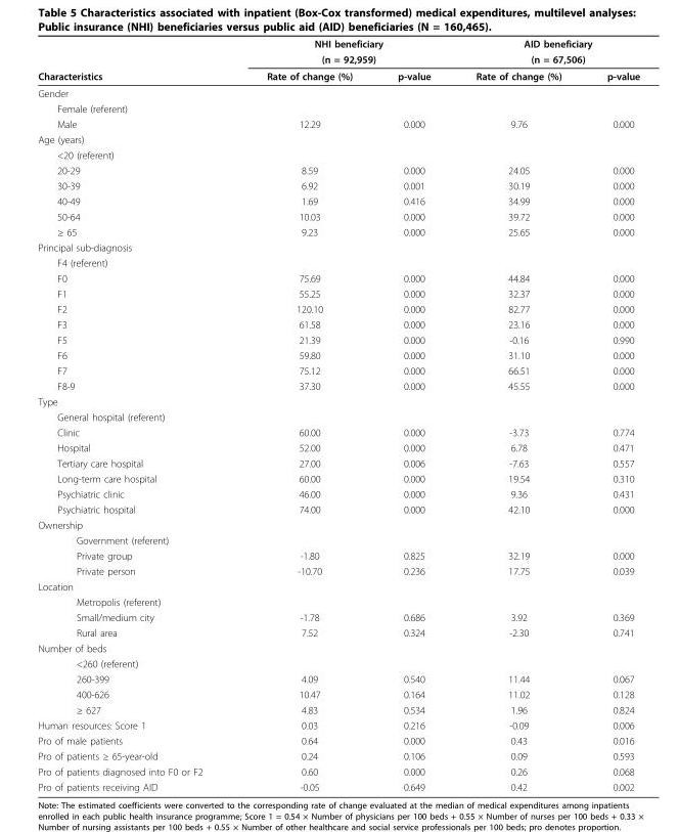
<table><thead><tr><td rowspan="3">Characteristics</td><td rowspan="2" colspan="2">NHI beneficiary (n = 92,959)</td><td rowspan="2" colspan="2">AID beneficiary (n = 67,506)</td></tr><tr></tr><tr><td>Rate of change (%)</td><td>p-value</td><td>Rate of change (%)</td><td>p-value</td></tr></thead><tbody><tr><td colspan="5">Gender</td></tr><tr><td colspan="5">Female (referent)</td></tr><tr><td>Male</td><td>12.29</td><td>0.000</td><td>9.76</td><td>0.000</td></tr><tr><td colspan="5">Age (years)</td></tr><tr><td colspan="5">&lt;20 (referent)</td></tr><tr><td>20-29</td><td>8.59</td><td>0.000</td><td>24.05</td><td>0.000</td></tr><tr><td>30-39</td><td>6.92</td><td>0.001</td><td>30.19</td><td>0.000</td></tr><tr><td>40-49</td><td>1.69</td><td>0.416</td><td>34.99</td><td>0.000</td></tr><tr><td>50-64</td><td>10.03</td><td>0.000</td><td>39.72</td><td>0.000</td></tr><tr><td>≥ 65</td><td>9.23</td><td>0.000</td><td>25.65</td><td>0.000</td></tr><tr><td colspan="5">Principal sub-diagnosis</td></tr><tr><td colspan="5">F4 (referent)</td></tr><tr><td>F0</td><td>75.69</td><td>0.000</td><td>44.84</td><td>0.000</td></tr><tr><td>F1</td><td>55.25</td><td>0.000</td><td>32.37</td><td>0.000</td></tr><tr><td>F2</td><td>120.10</td><td>0.000</td><td>82.77</td><td>0.000</td></tr><tr><td>F3</td><td>61.58</td><td>0.000</td><td>23.16</td><td>0.000</td></tr><tr><td>F5</td><td>21.39</td><td>0.000</td><td>-0.16</td><td>0.990</td></tr><tr><td>F6</td><td>59.80</td><td>0.000</td><td>31.10</td><td>0.000</td></tr><tr><td>F7</td><td>75.12</td><td>0.000</td><td>66.51</td><td>0.000</td></tr><tr><td>F8-9</td><td>37.30</td><td>0.000</td><td>45.55</td><td>0.000</td></tr><tr><td colspan="5">Type</td></tr><tr><td colspan="5">General hospital (referent)</td></tr><tr><td>Clinic</td><td>60.00</td><td>0.000</td><td>-3.73</td><td>0.774</td></tr><tr><td>Hospital</td><td>52.00</td><td>0.000</td><td>6.78</td><td>0.471</td></tr><tr><td>Tertiary care hospital</td><td>27.00</td><td>0.006</td><td>-7.63</td><td>0.557</td></tr><tr><td>Long-term care hospital</td><td>60.00</td><td>0.000</td><td>19.54</td><td>0.310</td></tr><tr><td>Psychiatric clinic</td><td>46.00</td><td>0.000</td><td>9.36</td><td>0.431</td></tr><tr><td>Psychiatric hospital</td><td>74.00</td><td>0.000</td><td>42.10</td><td>0.000</td></tr><tr><td colspan="5">Ownership</td></tr><tr><td colspan="5">Government (referent)</td></tr><tr><td>Private group</td><td>-1.80</td><td>0.825</td><td>32.19</td><td>0.000</td></tr><tr><td>Private person</td><td>-10.70</td><td>0.236</td><td>17.75</td><td>0.039</td></tr><tr><td colspan="5">Location</td></tr><tr><td colspan="5">Metropolis (referent)</td></tr><tr><td>Small/medium city</td><td>-1.78</td><td>0.686</td><td>3.92</td><td>0.369</td></tr><tr><td>Rural area</td><td>7.52</td><td>0.324</td><td>-2.30</td><td>0.741</td></tr><tr><td colspan="5">Number of beds</td></tr><tr><td colspan="5">&lt;260 (referent)</td></tr><tr><td>260-399</td><td>4.09</td><td>0.540</td><td>11.44</td><td>0.067</td></tr><tr><td>400-626</td><td>10.47</td><td>0.164</td><td>11.02</td><td>0.128</td></tr><tr><td>≥ 627</td><td>4.83</td><td>0.534</td><td>1.96</td><td>0.824</td></tr><tr><td>Human resources: Score 1</td><td>0.03</td><td>0.216</td><td>-0.09</td><td>0.006</td></tr><tr><td>Pro of male patients</td><td>0.64</td><td>0.000</td><td>0.43</td><td>0.016</td></tr><tr><td>Pro of patients ≥ 65-year-old</td><td>0.24</td><td>0.106</td><td>0.09</td><td>0.593</td></tr><tr><td>Pro of patients diagnosed into F0 or F2</td><td>0.60</td><td>0.000</td><td>0.26</td><td>0.068</td></tr><tr><td>Pro of patients receiving AID</td><td>-0.05</td><td>0.649</td><td>0.42</td><td>0.002</td></tr></tbody></table>